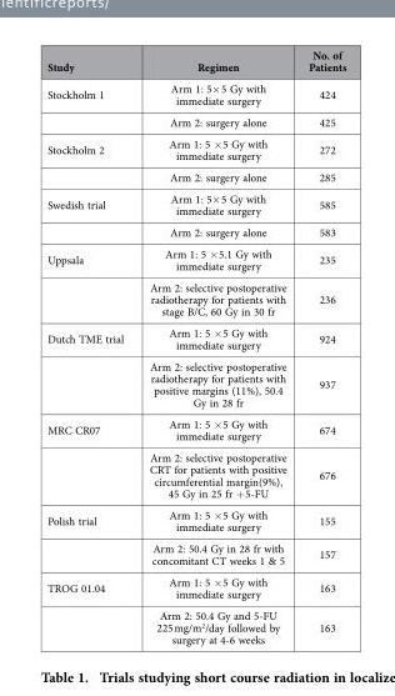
<table><thead><tr><td>Study</td><td>Regimen</td><td>No. of Patients</td></tr></thead><tbody><tr><td rowspan="2">Stockholm 1</td><td>Arm 1: 5× 5 Gy with immediate surgery</td><td>424</td></tr><tr><td>Arm 2: surgery alone</td><td>425</td></tr><tr><td rowspan="2">Stockholm 2</td><td>Arm 1: 5 × 5 Gy with immediate surgery</td><td>272</td></tr><tr><td>Arm 2: surgery alone</td><td>285</td></tr><tr><td rowspan="2">Swedish trial</td><td>Arm 1: 5× 5 Gy with immediate surgery</td><td>585</td></tr><tr><td>Arm 2: surgery alone</td><td>583</td></tr><tr><td rowspan="2">Uppsala</td><td>Arm 1: 5 × 5.1 Gy with immediate surgery</td><td>235</td></tr><tr><td>Arm 2: selective postoperative radiotherapy for patients with stage B/C, 60 Gy in 30 fr</td><td>236</td></tr><tr><td rowspan="2">Dutch TME trial</td><td>Arm 1: 5 × 5 Gy with immediate surgery</td><td>924</td></tr><tr><td>Arm 2: selective postoperative radiotherapy for patients with positive margins (11%), 50.4 Gy in 28 fr</td><td>937</td></tr><tr><td rowspan="2">MRC CR07</td><td>Arm 1: 5 × 5 Gy with immediate surgery</td><td>674</td></tr><tr><td>Arm 2: selective postoperative CRT for patients with positive circumferential margin(9%), 45 Gy in 25 fr + 5-FU</td><td>676</td></tr><tr><td rowspan="2">Polish trial</td><td>Arm 1: 5 × 5 Gy with immediate surgery</td><td>155</td></tr><tr><td>Arm 2: 50.4 Gy in 28 fr with concomitant CT weeks 1 &amp; 5</td><td>157</td></tr><tr><td rowspan="2">TROG 01.04</td><td>Arm 1: 5 × 5 Gy with immediate surgery</td><td>163</td></tr><tr><td>Arm 2: 50.4 Gy and 5-FU 225 mg/m<sup>2</sup>/day followed by surgery at 4-6 weeks</td><td>163</td></tr></tbody></table>